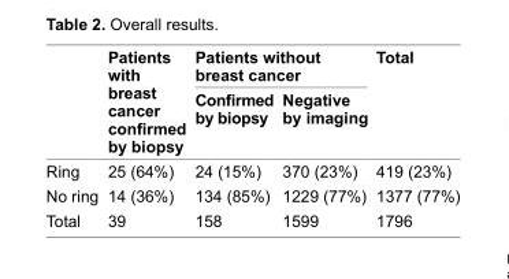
<table><thead><tr><td rowspan="2"></td><td rowspan="2">patients with breast cancer confirmed by biopsy</td><td colspan="2">patients without breast cancer</td><td rowspan="2">Total</td></tr><tr><td>Confirmed by biopsy</td><td>negative by imaging</td></tr></thead><tbody><tr><td>Ring</td><td>25 (64%)</td><td>24 (15%)</td><td>370 (23%)</td><td>419 (23%)</td></tr><tr><td>no ring</td><td>14 (36%)</td><td>134 (85%)</td><td>1229 (77%)</td><td>1377 (77%)</td></tr><tr><td>Total</td><td>39</td><td>158</td><td>1599</td><td>1796</td></tr></tbody></table>